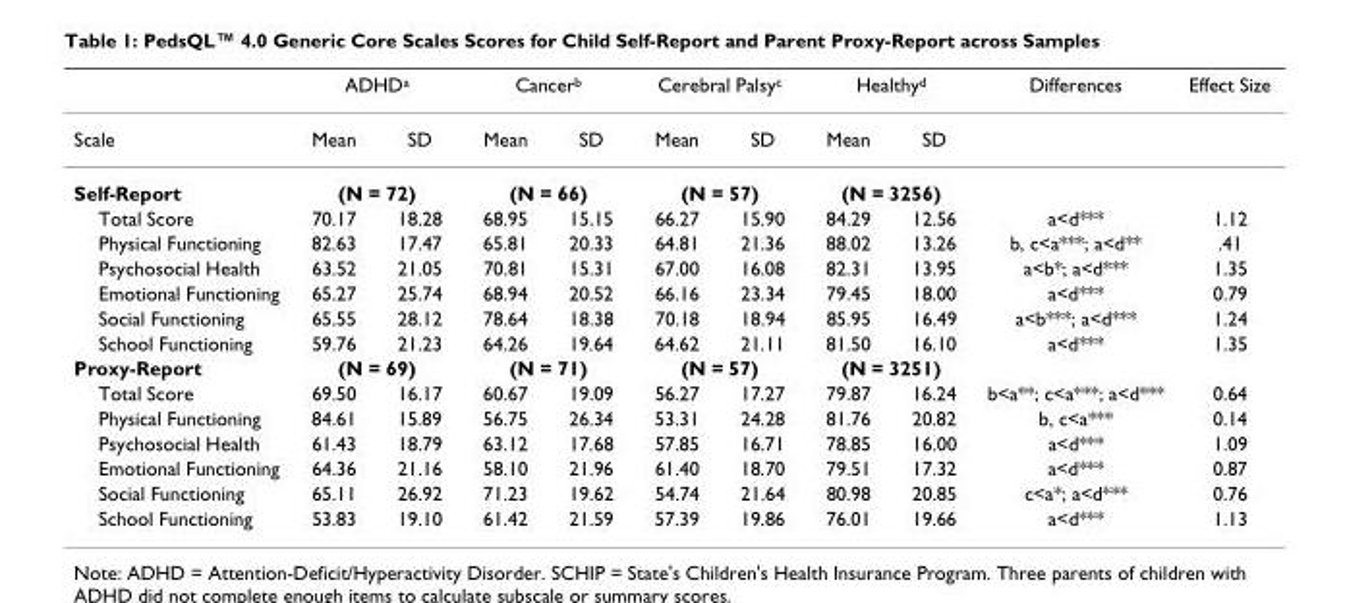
<table><thead><tr><td rowspan="2">Scale</td><td colspan="2">ADHD<sup>a</sup></td><td colspan="2">Cancer<sup>b</sup></td><td colspan="2">Cerebral Palsy<sup>c</sup></td><td colspan="2">Healthy<sup>d</sup></td><td rowspan="2">Differences</td><td rowspan="2">Effect Size</td></tr><tr><td>Mean</td><td>SD</td><td>Mean</td><td>SD</td><td>Mean</td><td>SD</td><td>Mean</td><td>SD</td></tr></thead><tbody><tr><td>Self-Report</td><td colspan="2">(N = 72)</td><td colspan="2">(N = 66)</td><td colspan="2">(N = 57)</td><td colspan="2">(N = 3256)</td><td></td><td></td></tr><tr><td>Total Score</td><td>70.17</td><td>18.28</td><td>68.95</td><td>15.15</td><td>66.27</td><td>15.90</td><td>84.29</td><td>12.56</td><td>a&lt;d***</td><td>1.12</td></tr><tr><td>Physical Functioning</td><td>82.63</td><td>17.47</td><td>65.81</td><td>20.33</td><td>64.81</td><td>21.36</td><td>88.02</td><td>13.26</td><td>b, c&lt;a***; a&lt;d**</td><td>.41</td></tr><tr><td>Psychosocial Health</td><td>63.52</td><td>21.05</td><td>70.81</td><td>15.31</td><td>67.00</td><td>16.08</td><td>82.31</td><td>13.95</td><td>a&lt;b*; a&lt;d***</td><td>1.35</td></tr><tr><td>Emotional Functioning</td><td>65.27</td><td>25.74</td><td>68.94</td><td>20.52</td><td>66.16</td><td>23.34</td><td>79.45</td><td>18.00</td><td>a&lt;d***</td><td>0.79</td></tr><tr><td>Social Functioning</td><td>65.55</td><td>28.12</td><td>78.64</td><td>18.38</td><td>70.18</td><td>18.94</td><td>85.95</td><td>16.49</td><td>a&lt;b***; a&lt;d***</td><td>1.24</td></tr><tr><td>School Functioning</td><td>59.76</td><td>21.23</td><td>64.26</td><td>19.64</td><td>64.62</td><td>21.11</td><td>81.50</td><td>16.10</td><td>a&lt;d***</td><td>1.35</td></tr><tr><td>Proxy-Report</td><td colspan="2">(N = 69)</td><td colspan="2">(N = 71)</td><td colspan="2">(N = 57)</td><td colspan="2">(N = 3251)</td><td></td><td></td></tr><tr><td>Total Score</td><td>69.50</td><td>16.17</td><td>60.67</td><td>19.09</td><td>56.27</td><td>17.27</td><td>79.87</td><td>16.24</td><td>b&lt;a**; c&lt;a***; a&lt;d***</td><td>0.64</td></tr><tr><td>Physical Functioning</td><td>84.61</td><td>15.89</td><td>56.75</td><td>26.34</td><td>53.31</td><td>24.28</td><td>81.76</td><td>20.82</td><td>b, c&lt;a***</td><td>0.14</td></tr><tr><td>Psychosocial Health</td><td>61.43</td><td>18.79</td><td>63.12</td><td>17.68</td><td>57.85</td><td>16.71</td><td>78.85</td><td>16.00</td><td>a&lt;d***</td><td>1.09</td></tr><tr><td>Emotional Functioning</td><td>64.36</td><td>21.16</td><td>58.10</td><td>21.96</td><td>61.40</td><td>18.70</td><td>79.51</td><td>17.32</td><td>a&lt;d***</td><td>0.87</td></tr><tr><td>Social Functioning</td><td>65.11</td><td>26.92</td><td>71.23</td><td>19.62</td><td>54.74</td><td>21.64</td><td>80.98</td><td>20.85</td><td>c&lt;a*; a&lt;d***</td><td>0.76</td></tr><tr><td>School Functioning</td><td>53.83</td><td>19.10</td><td>61.42</td><td>21.59</td><td>57.39</td><td>19.86</td><td>76.01</td><td>19.66</td><td>a&lt;d***</td><td>1.13</td></tr></tbody></table>